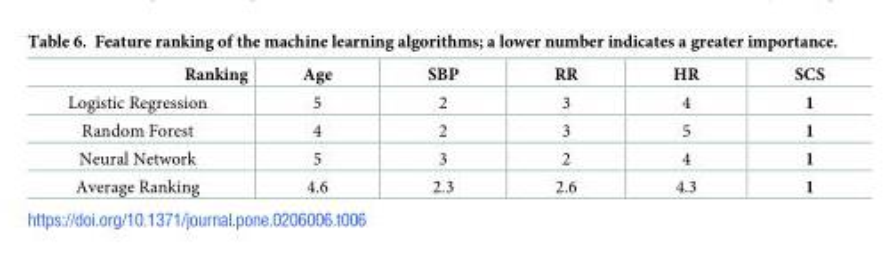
<table><thead><tr><td>Ranking</td><td>Age</td><td>SBP</td><td>RR</td><td>HR</td><td>SCS</td></tr></thead><tbody><tr><td>Logistic Regression</td><td>5</td><td>2</td><td>3</td><td>4</td><td>1</td></tr><tr><td>Random Forest</td><td>4</td><td>2</td><td>3</td><td>5</td><td>1</td></tr><tr><td>Neural Network</td><td>5</td><td>3</td><td>2</td><td>4</td><td>1</td></tr><tr><td>Average Ranking</td><td>4.6</td><td>2.3</td><td>2.6</td><td>4.3</td><td>1</td></tr></tbody></table>